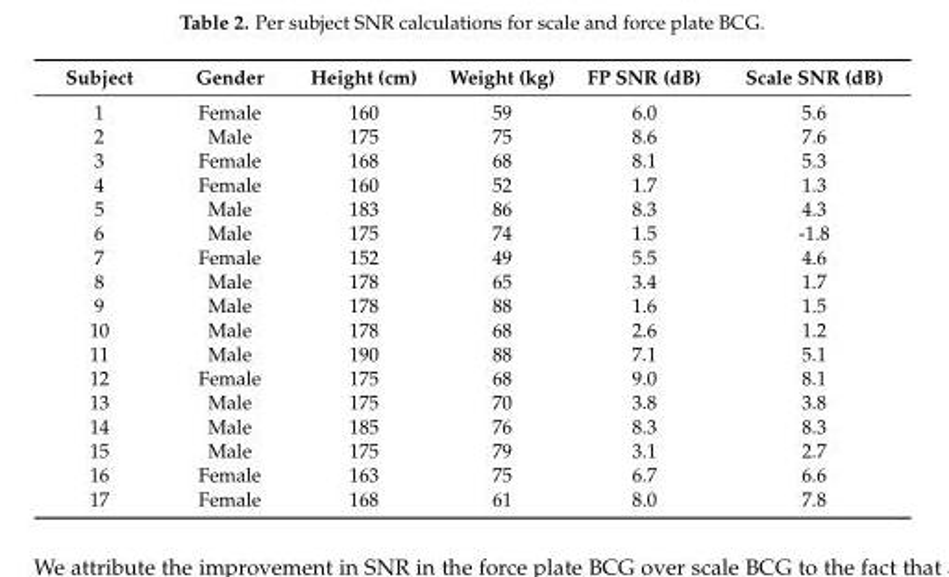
<table><thead><tr><td>Subject</td><td>Gender</td><td>Height (cm)</td><td>Weight (kg)</td><td>FP SNR (dB)</td><td>Scale SNR (dB)</td></tr></thead><tbody><tr><td>1</td><td>Female</td><td>160</td><td>59</td><td>6.0</td><td>5.6</td></tr><tr><td>2</td><td>Male</td><td>175</td><td>75</td><td>8.6</td><td>7.6</td></tr><tr><td>3</td><td>Female</td><td>168</td><td>68</td><td>8.1</td><td>5.3</td></tr><tr><td>4</td><td>Female</td><td>160</td><td>52</td><td>1.7</td><td>1.3</td></tr><tr><td>5</td><td>Male</td><td>183</td><td>86</td><td>8.3</td><td>4.3</td></tr><tr><td>6</td><td>Male</td><td>175</td><td>74</td><td>1.5</td><td>-1.8</td></tr><tr><td>7</td><td>Female</td><td>152</td><td>49</td><td>5.5</td><td>4.6</td></tr><tr><td>8</td><td>Male</td><td>178</td><td>65</td><td>3.4</td><td>1.7</td></tr><tr><td>9</td><td>Male</td><td>178</td><td>88</td><td>1.6</td><td>1.5</td></tr><tr><td>10</td><td>Male</td><td>178</td><td>68</td><td>2.6</td><td>1.2</td></tr><tr><td>11</td><td>Male</td><td>190</td><td>88</td><td>7.1</td><td>5.1</td></tr><tr><td>12</td><td>Female</td><td>175</td><td>68</td><td>9.0</td><td>8.1</td></tr><tr><td>13</td><td>Male</td><td>175</td><td>70</td><td>3.8</td><td>3.8</td></tr><tr><td>14</td><td>Male</td><td>185</td><td>76</td><td>8.3</td><td>8.3</td></tr><tr><td>15</td><td>Male</td><td>175</td><td>79</td><td>3.1</td><td>2.7</td></tr><tr><td>16</td><td>Female</td><td>163</td><td>75</td><td>6.7</td><td>6.6</td></tr><tr><td>17</td><td>Female</td><td>168</td><td>61</td><td>8.0</td><td>7.8</td></tr></tbody></table>